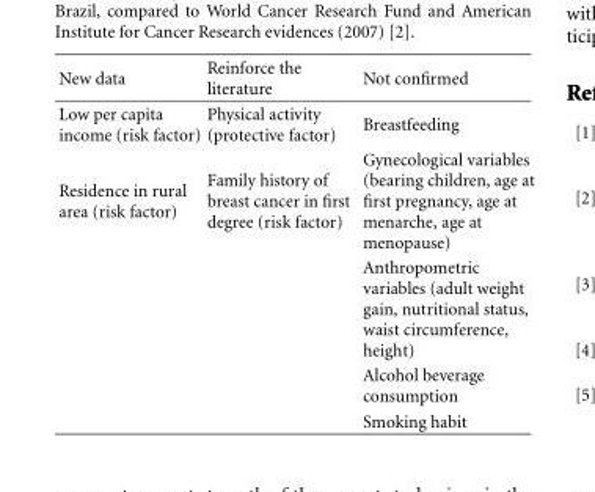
<table><thead><tr><td>New data</td><td>Reinforce the literature</td><td>Not confirmed</td></tr></thead><tbody><tr><td>Low per capita income (risk factor)</td><td>Physical activity (protective factor)</td><td>Breastfeeding</td></tr><tr><td rowspan="4">Residence in rural area (risk factor)</td><td>Family history of breast cancer in first degree (risk factor)</td><td>Gynecological variables (bearing children, age at first pregnancy, age at menarche, age at menopause)</td></tr><tr><td></td><td>Anthropometric variables (adult weight gain, nutritional status, waist circumference, height)</td></tr><tr><td></td><td>Alcohol beverage consumption</td></tr><tr><td></td><td>Smoking habit</td></tr></tbody></table>